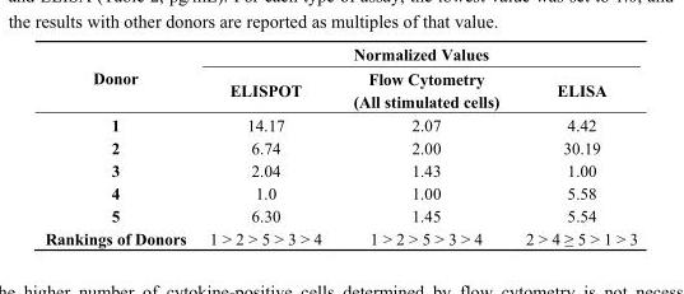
<table><thead><tr><td rowspan="2">Donor</td><td colspan="3">Normalized Values</td></tr><tr><td>ELISPOT</td><td>Flow Cytometry (All stimulated cells)</td><td>ELISA</td></tr></thead><tbody><tr><td>1</td><td>14.17</td><td>2.07</td><td>4.42</td></tr><tr><td>2</td><td>6.74</td><td>2.00</td><td>30.19</td></tr><tr><td>3</td><td>2.04</td><td>1.43</td><td>1.00</td></tr><tr><td>4</td><td>1.0</td><td>1.00</td><td>5.58</td></tr><tr><td>5</td><td>6.30</td><td>1.45</td><td>5.54</td></tr><tr><td>Rankings of Donors</td><td>1 &gt; 2 &gt; 5 &gt; 3 &gt; 4</td><td>1 &gt; 2 &gt; 5 &gt; 3 &gt; 4</td><td>2 &gt; 4 ≥ 5 &gt; 1 &gt; 3</td></tr></tbody></table>